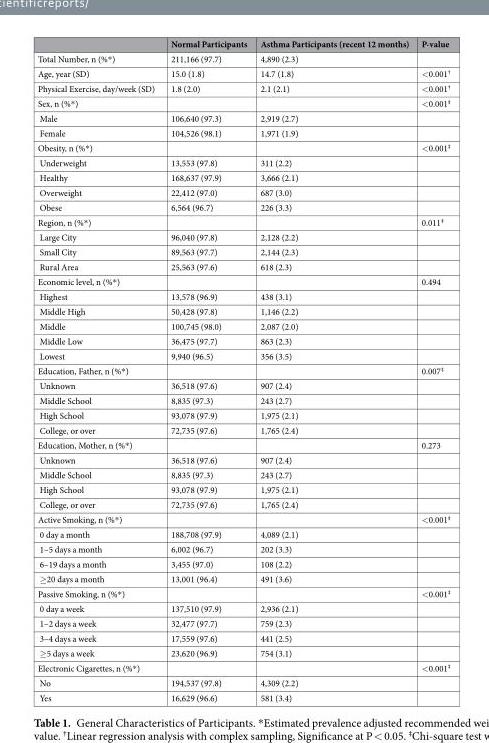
<table><thead><tr><td></td><td>Normal Participants</td><td>Asthma Participants (recent 12 months)</td><td>P-value</td></tr></thead><tbody><tr><td>Total Number, n (%*)</td><td>211,166 (97.7)</td><td>4,890 (2.3)</td><td></td></tr><tr><td>Age, year (SD)</td><td>15.0 (1.8)</td><td>14.7 (1.8)</td><td>&lt;0.001<sup>†</sup></td></tr><tr><td>Physical Exercise, day/week (SD)</td><td>1.8 (2.0)</td><td>2.1 (2.1)</td><td>&lt;0.001<sup>†</sup></td></tr><tr><td>Sex, n (%*)</td><td></td><td></td><td>&lt;0.001<sup>‡</sup></td></tr><tr><td>Male</td><td>106,640 (97.3)</td><td>2,919 (2.7)</td><td></td></tr><tr><td>Female</td><td>104,526 (98.1)</td><td>1,971 (1.9)</td><td></td></tr><tr><td>Obesity, n (%*)</td><td></td><td></td><td>&lt;0.001<sup>‡</sup></td></tr><tr><td>Underweight</td><td>13,553 (97.8)</td><td>311 (2.2)</td><td></td></tr><tr><td>Healthy</td><td>168,637 (97.9)</td><td>3,666 (2.1)</td><td></td></tr><tr><td>Overweight</td><td>22,412 (97.0)</td><td>687 (3.0)</td><td></td></tr><tr><td>Obese</td><td>6,564 (96.7)</td><td>226 (3.3)</td><td></td></tr><tr><td>Region, n (%*)</td><td></td><td></td><td>0.011<sup>‡</sup></td></tr><tr><td>Large City</td><td>96,040 (97.8)</td><td>2,128 (2.2)</td><td></td></tr><tr><td>Small City</td><td>89,563 (97.7)</td><td>2,144 (2.3)</td><td></td></tr><tr><td>Rural Area</td><td>25,563 (97.6)</td><td>618 (2.3)</td><td></td></tr><tr><td>Economic level, n (%*)</td><td></td><td></td><td>0.494</td></tr><tr><td>Highest</td><td>13,578 (96.9)</td><td>438 (3.1)</td><td></td></tr><tr><td>Middle High</td><td>50,428 (97.8)</td><td>1,146 (2.2)</td><td></td></tr><tr><td>Middle</td><td>100,745 (98.0)</td><td>2,087 (2.0)</td><td></td></tr><tr><td>Middle Low</td><td>36,475 (97.7)</td><td>863 (2.3)</td><td></td></tr><tr><td>Lowest</td><td>9,940 (96.5)</td><td>356 (3.5)</td><td></td></tr><tr><td>Education, Father, n (%*)</td><td></td><td></td><td>0.007<sup>‡</sup></td></tr><tr><td>Unknown</td><td>36,518 (97.6)</td><td>907 (2.4)</td><td></td></tr><tr><td>Middle School</td><td>8,835 (97.3)</td><td>243 (2.7)</td><td></td></tr><tr><td>High School</td><td>93,078 (97.9)</td><td>1,975 (2.1)</td><td></td></tr><tr><td>College, or over</td><td>72,735 (97.6)</td><td>1,765 (2.4)</td><td></td></tr><tr><td>Education, Mother, n (%*)</td><td></td><td></td><td>0.273</td></tr><tr><td>Unknown</td><td>36,518 (97.6)</td><td>907 (2.4)</td><td></td></tr><tr><td>Middle School</td><td>8,835 (97.3)</td><td>243 (2.7)</td><td></td></tr><tr><td>High School</td><td>93,078 (97.9)</td><td>1,975 (2.1)</td><td></td></tr><tr><td>College, or over</td><td>72,735 (97.6)</td><td>1,765 (2.4)</td><td></td></tr><tr><td>Active Smoking, n (%*)</td><td></td><td></td><td>&lt;0.001<sup>‡</sup></td></tr><tr><td>0 day a month</td><td>188,708 (97.9)</td><td>4,089 (2.1)</td><td></td></tr><tr><td>1–5 days a month</td><td>6,002 (96.7)</td><td>202 (3.3)</td><td></td></tr><tr><td>6–19 days a month</td><td>3,455 (97.0)</td><td>108 (2.2)</td><td></td></tr><tr><td>≥20 days a month</td><td>13,001 (96.4)</td><td>491 (3.6)</td><td></td></tr><tr><td>Passive Smoking, n (%*)</td><td></td><td></td><td>&lt;0.001<sup>‡</sup></td></tr><tr><td>0 day a week</td><td>137,510 (97.9)</td><td>2,936 (2.1)</td><td></td></tr><tr><td>1–2 days a week</td><td>32,477 (97.7)</td><td>759 (2.3)</td><td></td></tr><tr><td>3–4 days a week</td><td>17,559 (97.6)</td><td>441 (2.5)</td><td></td></tr><tr><td>≥5 days a week</td><td>23,620 (96.9)</td><td>754 (3.1)</td><td></td></tr><tr><td>Electronic Cigarettes, n (%*)</td><td></td><td></td><td>&lt;0.001<sup>‡</sup></td></tr><tr><td>No</td><td>194,537 (97.8)</td><td>4,309 (2.2)</td><td></td></tr><tr><td>Yes</td><td>16,629 (96.6)</td><td>581 (3.4)</td><td></td></tr></tbody></table>